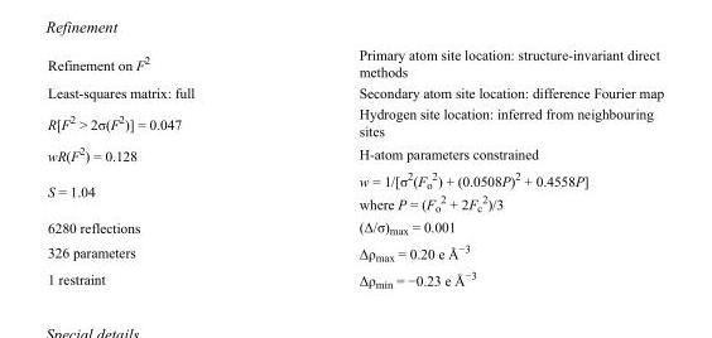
<table><tbody><tr><td>Refinement on F<sup>2</sup></td><td>Primary atom site location: structure-invariant direct methods</td></tr><tr><td>Least-squares matrix: full</td><td>Secondary atom site location: difference Fourier map</td></tr><tr><td>R[F<sup>2</sup> &gt; 2σ(F<sup>2</sup>)] = 0.047</td><td>Hydrogen site location: inferred from neighbouring sites</td></tr><tr><td>wR(F<sup>2</sup>) = 0.128</td><td>H-atom parameters constrained</td></tr><tr><td>S = 1.04</td><td>w = 1/[σ<sup>2</sup>(F<sub>o</sub> <sup>2</sup>) + (0.0508P)<sup>2</sup> + 0.4558P] where P = (F<sub>o</sub> <sup>2</sup> + 2F<sub>c</sub> <sup>2</sup>)/3</td></tr><tr><td>6280 reflections</td><td>(Δ/σ)<sub>max</sub> = 0.001</td></tr><tr><td>326 parameters</td><td>Δρ<sub>max</sub> = 0.20 e Å<sup>−3</sup></td></tr><tr><td>1 restraint</td><td>Δρ<sub>min</sub> = −0.23 e Å<sup>−3</sup></td></tr></tbody></table>